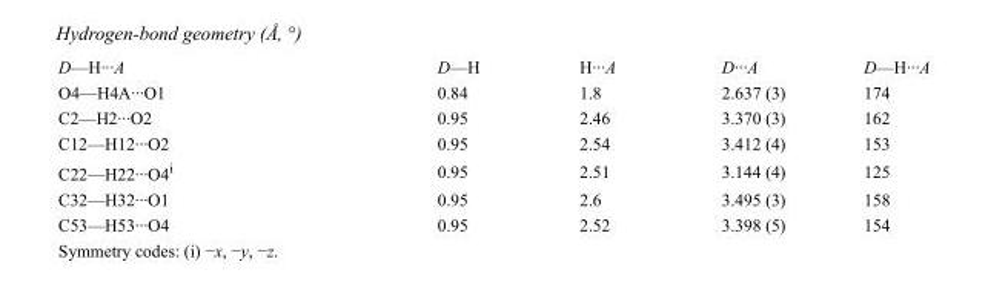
<table><tbody><tr><td>D—H···A</td><td>D—H</td><td>H···A</td><td>D···A</td><td>D—H···A</td></tr><tr><td>O4—H4A···O1</td><td>0.84</td><td>1.8</td><td>2.637 (3)</td><td>174</td></tr><tr><td>C2—H2···O2</td><td>0.95</td><td>2.46</td><td>3.370 (3)</td><td>162</td></tr><tr><td>C12—H12···O2</td><td>0.95</td><td>2.54</td><td>3.412 (4)</td><td>153</td></tr><tr><td>C22—H22···O4<sup>i</sup></td><td>0.95</td><td>2.51</td><td>3.144 (4)</td><td>125</td></tr><tr><td>C32—H32···O1</td><td>0.95</td><td>2.6</td><td>3.495 (3)</td><td>158</td></tr><tr><td>C53—H53···O4</td><td>0.95</td><td>2.52</td><td>3.398 (5)</td><td>154</td></tr></tbody></table>